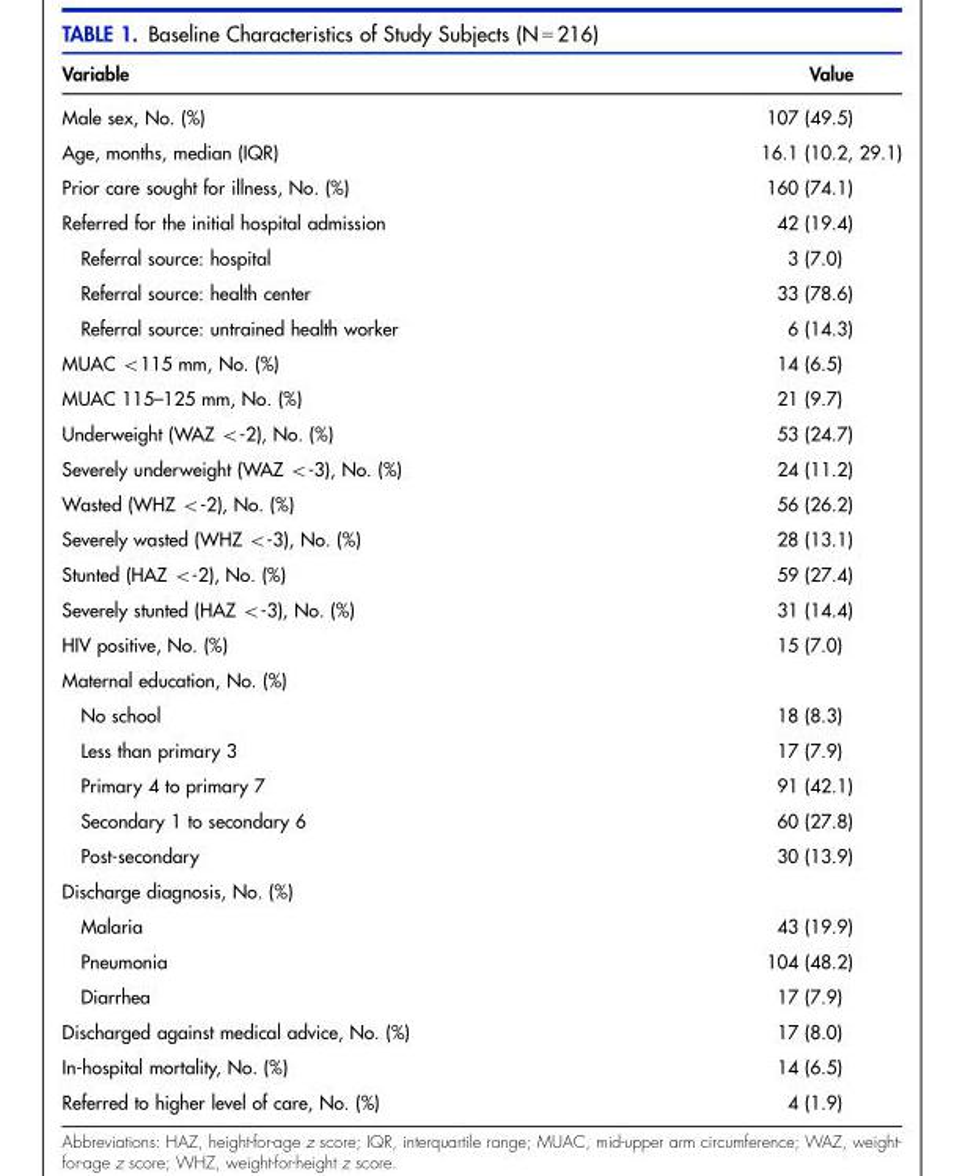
<table><thead><tr><td>Variable</td><td>Value</td></tr></thead><tbody><tr><td>Male sex, No. (%)</td><td>107 (49.5)</td></tr><tr><td>Age, months, median (IQR)</td><td>16.1 (10.2, 29.1)</td></tr><tr><td>Prior care sought for illness, No. (%)</td><td>160 (74.1)</td></tr><tr><td>Referred for the initial hospital admission</td><td>42 (19.4)</td></tr><tr><td>Referral source: hospital</td><td>3 (7.0)</td></tr><tr><td>Referral source: health center</td><td>33 (78.6)</td></tr><tr><td>Referral source: untrained health worker</td><td>6 (14.3)</td></tr><tr><td>MUAC &lt;115 mm, No. (%)</td><td>14 (6.5)</td></tr><tr><td>MUAC 115–125 mm, No. (%)</td><td>21 (9.7)</td></tr><tr><td>Underweight (WAZ &lt;-2), No. (%)</td><td>53 (24.7)</td></tr><tr><td>Severely underweight (WAZ &lt;-3), No. (%)</td><td>24 (11.2)</td></tr><tr><td>Wasted (WHZ &lt;-2), No. (%)</td><td>56 (26.2)</td></tr><tr><td>Severely wasted (WHZ &lt;-3), No. (%)</td><td>28 (13.1)</td></tr><tr><td>Stunted (HAZ &lt;-2), No. (%)</td><td>59 (27.4)</td></tr><tr><td>Severely stunted (HAZ &lt;-3), No. (%)</td><td>31 (14.4)</td></tr><tr><td>HIV positive, No. (%)</td><td>15 (7.0)</td></tr><tr><td colspan="2">Maternal education, No. (%)</td></tr><tr><td>No school</td><td>18 (8.3)</td></tr><tr><td>Less than primary 3</td><td>17 (7.9)</td></tr><tr><td>Primary 4 to primary 7</td><td>91 (42.1)</td></tr><tr><td>Secondary 1 to secondary 6</td><td>60 (27.8)</td></tr><tr><td>Post-secondary</td><td>30 (13.9)</td></tr><tr><td colspan="2">Discharge diagnosis, No. (%)</td></tr><tr><td>Malaria</td><td>43 (19.9)</td></tr><tr><td>Pneumonia</td><td>104 (48.2)</td></tr><tr><td>Diarrhea</td><td>17 (7.9)</td></tr><tr><td>Discharged against medical advice, No. (%)</td><td>17 (8.0)</td></tr><tr><td>In-hospital mortality, No. (%)</td><td>14 (6.5)</td></tr><tr><td>Referred to higher level of care, No. (%)</td><td>4 (1.9)</td></tr></tbody></table>